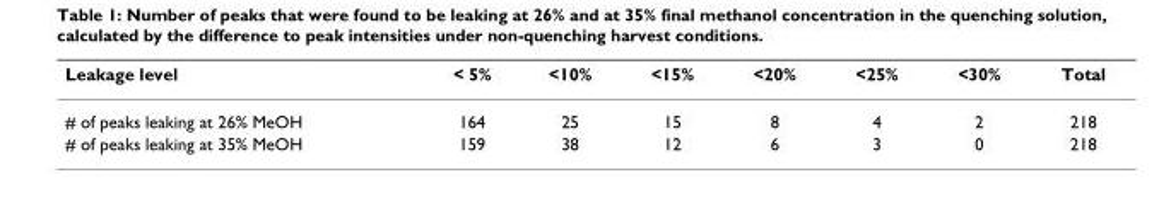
<table><thead><tr><td>Leakage level</td><td>&lt; 5%</td><td>&lt;10%</td><td>&lt;15%</td><td>&lt;20%</td><td>&lt;25%</td><td>&lt;30%</td><td>Total</td></tr></thead><tbody><tr><td># of peaks leaking at 26% MeOH</td><td>164</td><td>25</td><td>15</td><td>8</td><td>4</td><td>2</td><td>218</td></tr><tr><td># of peaks leaking at 35% MeOH</td><td>159</td><td>38</td><td>12</td><td>6</td><td>3</td><td>0</td><td>218</td></tr></tbody></table>